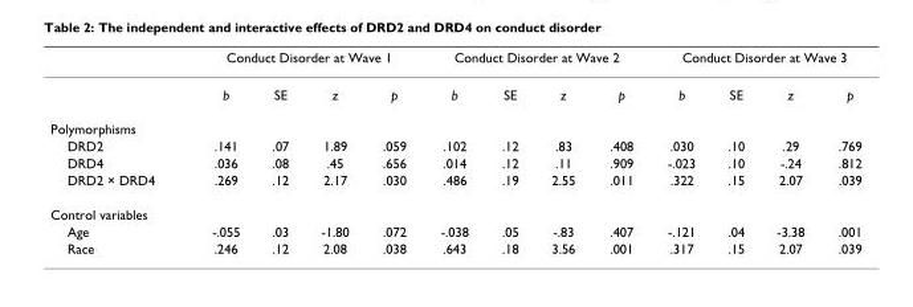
<table><thead><tr><td rowspan="2"></td><td colspan="4">Conduct Disorder at Wave 1</td><td colspan="4">Conduct Disorder at Wave 2</td><td colspan="4">Conduct Disorder at Wave 3</td></tr><tr><td>b</td><td>SE</td><td>z</td><td>p</td><td>b</td><td>SE</td><td>z</td><td>p</td><td>b</td><td>SE</td><td>z</td><td>p</td></tr></thead><tbody><tr><td colspan="13">Polymorphisms</td></tr><tr><td>DRD2</td><td>.141</td><td>.07</td><td>1.89</td><td>.059</td><td>.102</td><td>.12</td><td>.83</td><td>.408</td><td>.030</td><td>.10</td><td>.29</td><td>.769</td></tr><tr><td>DRD4</td><td>.036</td><td>.08</td><td>.45</td><td>.656</td><td>.014</td><td>.12</td><td>.11</td><td>.909</td><td>-.023</td><td>.10</td><td>-.24</td><td>.812</td></tr><tr><td>DRD2 × DRD4</td><td>.269</td><td>.12</td><td>2.17</td><td>.030</td><td>.486</td><td>.19</td><td>2.55</td><td>.011</td><td>.322</td><td>.15</td><td>2.07</td><td>.039</td></tr><tr><td colspan="13">Control variables</td></tr><tr><td>Age</td><td>-.055</td><td>.03</td><td>-1.80</td><td>.072</td><td>-.038</td><td>.05</td><td>-.83</td><td>.407</td><td>-.121</td><td>.04</td><td>-3.38</td><td>.001</td></tr><tr><td>Race</td><td>.246</td><td>.12</td><td>2.08</td><td>.038</td><td>.643</td><td>.18</td><td>3.56</td><td>.001</td><td>.317</td><td>.15</td><td>2.07</td><td>.039</td></tr></tbody></table>